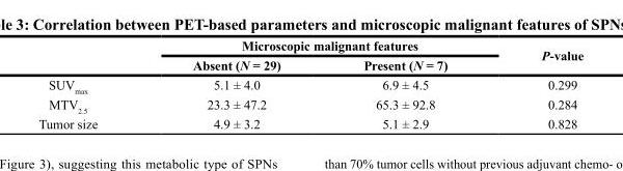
<table><thead><tr><td rowspan="2"></td><td colspan="2">Microscopic malignant features</td><td rowspan="2">P-value</td></tr><tr><td>Absent (N = 29)</td><td>Present (N = 7)</td></tr></thead><tbody><tr><td>SUV<sub>max</sub></td><td>5.1 ± 4.0</td><td>6.9 ± 4.5</td><td>0.299</td></tr><tr><td>MTV<sub>2.5</sub></td><td>23.3 ± 47.2</td><td>65.3 ± 92.8</td><td>0.284</td></tr><tr><td>Tumor size</td><td>4.9 ± 3.2</td><td>5.1 ± 2.9</td><td>0.828</td></tr></tbody></table>